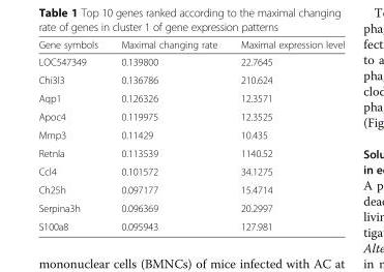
<table><thead><tr><td>Gene symbols</td><td>Maximal changing rate</td><td>Maximal expression level</td></tr></thead><tbody><tr><td>LOC547349</td><td>0.139800</td><td>22.7645</td></tr><tr><td>Chi3l3</td><td>0.136786</td><td>210.624</td></tr><tr><td>Aqp1</td><td>0.126326</td><td>12.3571</td></tr><tr><td>Apoc4</td><td>0.119975</td><td>12.3525</td></tr><tr><td>Mmp3</td><td>0.11429</td><td>10.435</td></tr><tr><td>Retnla</td><td>0.113539</td><td>1140.52</td></tr><tr><td>Ccl4</td><td>0.101572</td><td>34.1275</td></tr><tr><td>Ch25h</td><td>0.097177</td><td>15.4714</td></tr><tr><td>Serpina3h</td><td>0.096369</td><td>20.2997</td></tr><tr><td>S100a8</td><td>0.095943</td><td>127.981</td></tr></tbody></table>